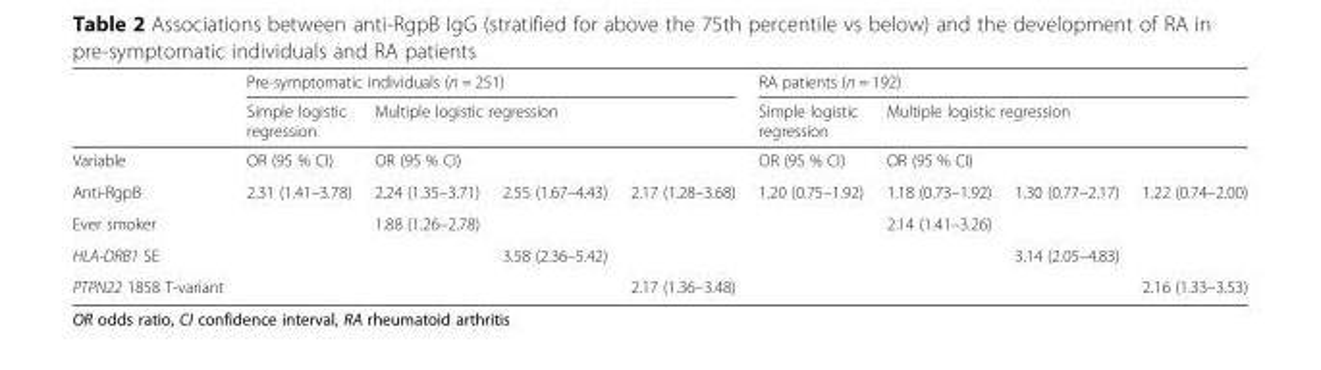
<table><thead><tr><td rowspan="4">Variable Anti-RgpB</td><td colspan="4">Pre-symptomatic individuals (n = 251)</td><td colspan="4">RA patients (n = 192)</td></tr><tr><td rowspan="3">Simple logistic regression OR (95 % CI) 2.31 (1.41–3.78)</td><td rowspan="2" colspan="3">Multiple logistic regression OR (95 % CI)</td><td rowspan="3">Simple logistic regression OR (95 % CI) 1.20 (0.75–1.92)</td><td rowspan="2" colspan="3">Multiple logistic regression OR (95 % CI)</td></tr><tr></tr><tr><td>2.24 (1.35–3.71)</td><td>2.55 (1.67–4.43)</td><td>2.17 (1.28–3.68)</td><td>1.18 (0.73–1.92)</td><td>1.30 (0.77–2.17)</td><td>1.22 (0.74–2.00)</td></tr></thead><tbody><tr><td>Ever smoker</td><td></td><td>1.88 (1.26–2.78)</td><td></td><td></td><td></td><td>2.14 (1.41–3.26)</td><td></td><td></td></tr><tr><td>HLA-DRB1 SE</td><td></td><td></td><td>3.58 (2.36–5.42)</td><td></td><td></td><td></td><td>3.14 (2.05–4.83)</td><td></td></tr><tr><td>PTPN22 1858 T-variant</td><td></td><td></td><td></td><td>2.17 (1.36–3.48)</td><td></td><td></td><td></td><td>2.16 (1.33–3.53)</td></tr></tbody></table>